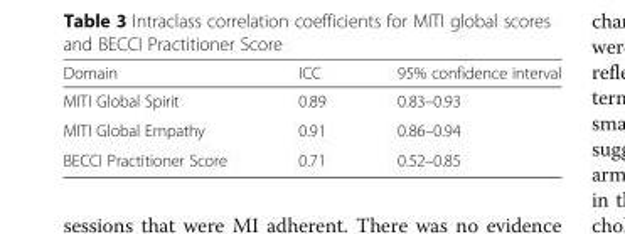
<table><thead><tr><td>Domain</td><td>ICC</td><td>95% confidence interval</td></tr></thead><tbody><tr><td>MITI Global Spirit</td><td>0.89</td><td>0.83–0.93</td></tr><tr><td>MITI Global Empathy</td><td>0.91</td><td>0.86–0.94</td></tr><tr><td>BECCI Practitioner Score</td><td>0.71</td><td>0.52–0.85</td></tr></tbody></table>